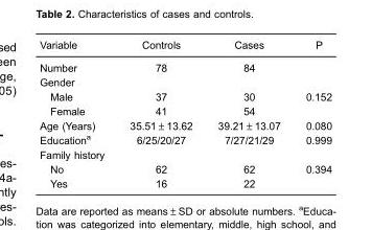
<table><thead><tr><td>Variable</td><td>Controls</td><td>Cases</td><td>P</td></tr></thead><tbody><tr><td>Number</td><td>78</td><td>84</td><td></td></tr><tr><td colspan="4">Gender</td></tr><tr><td>Male</td><td>37</td><td>30</td><td>0.152</td></tr><tr><td>Female</td><td>41</td><td>54</td><td></td></tr><tr><td>Age (Years)</td><td>35.51±13.62</td><td>39.21±13.07</td><td>0.080</td></tr><tr><td>Education<sup>a</sup></td><td>6/25/20/27</td><td>7/27/21/29</td><td>0.999</td></tr><tr><td colspan="4">Family history</td></tr><tr><td>No</td><td>62</td><td>62</td><td>0.394</td></tr><tr><td>Yes</td><td>16</td><td>22</td><td></td></tr></tbody></table>